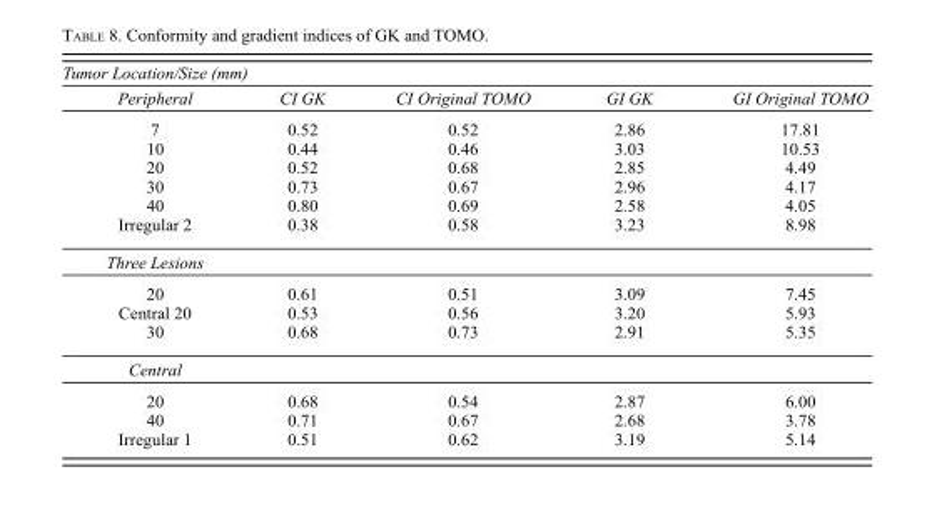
<table><thead><tr><td colspan="5">Tumor Location/Size (mm)</td></tr><tr><td>Peripheral</td><td>CI GK</td><td>CI Original TOMO</td><td>GI GK</td><td>GI Original TOMO</td></tr></thead><tbody><tr><td>7</td><td>0.52</td><td>0.52</td><td>2.86</td><td>17.81</td></tr><tr><td>10</td><td>0.44</td><td>0.46</td><td>3.03</td><td>10.53</td></tr><tr><td>20</td><td>0.52</td><td>0.68</td><td>2.85</td><td>4.49</td></tr><tr><td>30</td><td>0.73</td><td>0.67</td><td>2.96</td><td>4.17</td></tr><tr><td>40</td><td>0.80</td><td>0.69</td><td>2.58</td><td>4.05</td></tr><tr><td>Irregular 2</td><td>0.38</td><td>0.58</td><td>3.23</td><td>8.98</td></tr><tr><td colspan="5">Three Lesions</td></tr><tr><td>20</td><td>0.61</td><td>0.51</td><td>3.09</td><td>7.45</td></tr><tr><td>Central 20</td><td>0.53</td><td>0.56</td><td>3.20</td><td>5.93</td></tr><tr><td>30</td><td>0.68</td><td>0.73</td><td>2.91</td><td>5.35</td></tr><tr><td colspan="5">Central</td></tr><tr><td>20</td><td>0.68</td><td>0.54</td><td>2.87</td><td>6.00</td></tr><tr><td>40</td><td>0.71</td><td>0.67</td><td>2.68</td><td>3.78</td></tr><tr><td>Irregular 1</td><td>0.51</td><td>0.62</td><td>3.19</td><td>5.14</td></tr></tbody></table>